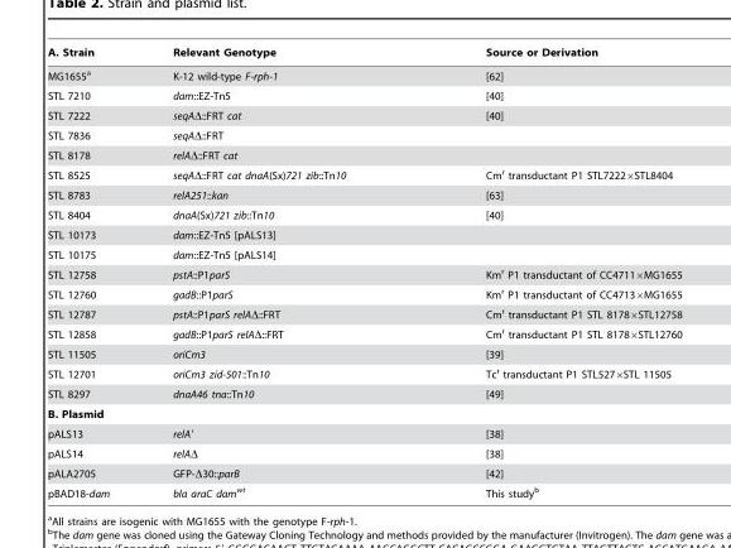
<table><thead><tr><td>A. Strain</td><td>Relevant Genotype</td><td>Source or Derivation</td></tr></thead><tbody><tr><td>MG1655<sup>a</sup></td><td>K-12 wild-type F-rph-1</td><td>[62]</td></tr><tr><td>STL 7210</td><td>dam::EZ-Tn5</td><td>[40]</td></tr><tr><td>STL 7222</td><td>seqAΔ::FRT cat</td><td>[40]</td></tr><tr><td>STL 7836</td><td>seqAΔ::FRT</td><td></td></tr><tr><td>STL 8178</td><td>relAΔ::FRT cat</td><td></td></tr><tr><td>STL 8525</td><td>seqAΔ::FRT cat dnaA(Sx)721 zib::Tn10</td><td>Cm<sup>r</sup> transductant P1 STL7222×STL8404</td></tr><tr><td>STL 8783</td><td>relA251::kan</td><td>[63]</td></tr><tr><td>STL 8404</td><td>dnaA(Sx)721 zib::Tn10</td><td>[40]</td></tr><tr><td>STL 10173</td><td>dam::EZ-Tn5 [pALS13]</td><td></td></tr><tr><td>STL 10175</td><td>dam::EZ-Tn5 [pALS14]</td><td></td></tr><tr><td>STL 12758</td><td>pstA::P1parS</td><td>Km<sup>r</sup> P1 transductant of CC4711×MG1655</td></tr><tr><td>STL 12760</td><td>gadB::P1parS</td><td>Km<sup>r</sup> P1 transductant of CC4713×MG1655</td></tr><tr><td>STL 12787</td><td>pstA::P1parS relAΔ::FRT</td><td>Cm<sup>r</sup> transductant P1 STL 8178×STL12758</td></tr><tr><td>STL 12858</td><td>gadB::P1parS relAΔ::FRT</td><td>Cm<sup>r</sup> transductant P1 STL 8178×STL12760</td></tr><tr><td>STL 11505</td><td>oriCm3</td><td>[39]</td></tr><tr><td>STL 12701</td><td>oriCm3 zid-501::Tn10</td><td>Tc<sup>r</sup> transductant P1 STL527×STL 11505</td></tr><tr><td>STL 8297</td><td>dnaA46 tna::Tn10</td><td>[49]</td></tr><tr><td colspan="3">B. Plasmid</td></tr><tr><td>pALS13</td><td>relA′</td><td>[38]</td></tr><tr><td>pALS14</td><td>relAΔ</td><td>[38]</td></tr><tr><td>pALA2705</td><td>GFP-Δ30::parB</td><td>[42]</td></tr><tr><td>pBAD18-dam</td><td>bla araC dam<sup>wt</sup></td><td>This study<sup>b</sup></td></tr></tbody></table>